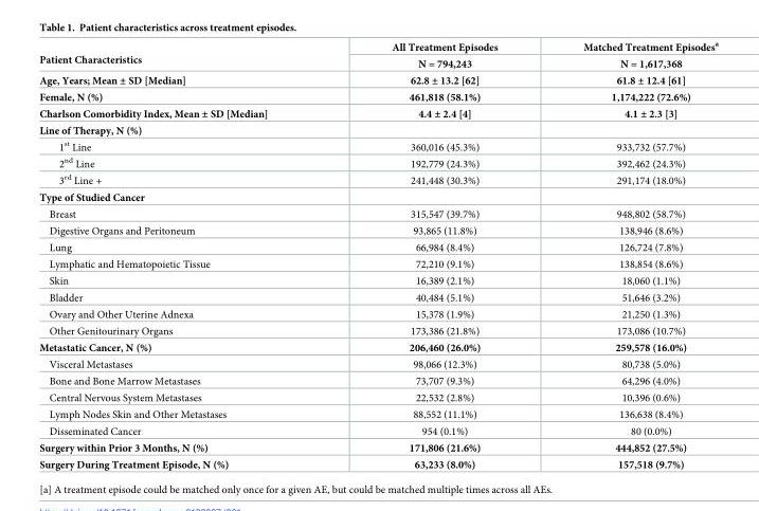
<table><thead><tr><td rowspan="2">Patient Characteristics</td><td rowspan="2">All Treatment Episodes N = 794,243</td><td rowspan="2">Matched Treatment Episodes<sup>a</sup> N = 1,617,368</td></tr><tr></tr></thead><tbody><tr><td>Age, Years; Mean ± SD [Median]</td><td>62.8 ± 13.2 [62]</td><td>61.8 ± 12.4 [61]</td></tr><tr><td>Female, N (%)</td><td>461,818 (58.1%)</td><td>1,174,222 (72.6%)</td></tr><tr><td>Charlson Comorbidity Index, Mean ± SD [Median]</td><td>4.4 ± 2.4 [4]</td><td>4.1 ± 2.3 [3]</td></tr><tr><td colspan="3">Line of Therapy, N (%)</td></tr><tr><td>1<sup>st</sup> Line</td><td>360,016 (45.3%)</td><td>933,732 (57.7%)</td></tr><tr><td>2<sup>nd</sup> Line</td><td>192,779 (24.3%)</td><td>392,462 (24.3%)</td></tr><tr><td>3<sup>rd</sup> Line +</td><td>241,448 (30.3%)</td><td>291,174 (18.0%)</td></tr><tr><td colspan="3">Type of Studied Cancer</td></tr><tr><td>Breast</td><td>315,547 (39.7%)</td><td>948,802 (58.7%)</td></tr><tr><td>Digestive Organs and Peritoneum</td><td>93,865 (11.8%)</td><td>138,946 (8.6%)</td></tr><tr><td>Lung</td><td>66,984 (8.4%)</td><td>126,724 (7.8%)</td></tr><tr><td>Lymphatic and Hematopoietic Tissue</td><td>72,210 (9.1%)</td><td>138,854 (8.6%)</td></tr><tr><td>Skin</td><td>16,389 (2.1%)</td><td>18,060 (1.1%)</td></tr><tr><td>Bladder</td><td>40,484 (5.1%)</td><td>51,646 (3.2%)</td></tr><tr><td>Ovary and Other Uterine Adnexa</td><td>15,378 (1.9%)</td><td>21,250 (1.3%)</td></tr><tr><td>Other Genitourinary Organs</td><td>173,386 (21.8%)</td><td>173,086 (10.7%)</td></tr><tr><td>Metastatic Cancer, N (%)</td><td>206,460 (26.0%)</td><td>259,578 (16.0%)</td></tr><tr><td>Visceral Metastases</td><td>98,066 (12.3%)</td><td>80,738 (5.0%)</td></tr><tr><td>Bone and Bone Marrow Metastases</td><td>73,707 (9.3%)</td><td>64,296 (4.0%)</td></tr><tr><td>Central Nervous System Metastases</td><td>22,532 (2.8%)</td><td>10,396 (0.6%)</td></tr><tr><td>Lymph Nodes Skin and Other Metastases</td><td>88,552 (11.1%)</td><td>136,638 (8.4%)</td></tr><tr><td>Disseminated Cancer</td><td>954 (0.1%)</td><td>80 (0.0%)</td></tr><tr><td>Surgery within Prior 3 Months, N (%)</td><td>171,806 (21.6%)</td><td>444,852 (27.5%)</td></tr><tr><td>Surgery During Treatment Episode, N (%)</td><td>63,233 (8.0%)</td><td>157,518 (9.7%)</td></tr></tbody></table>